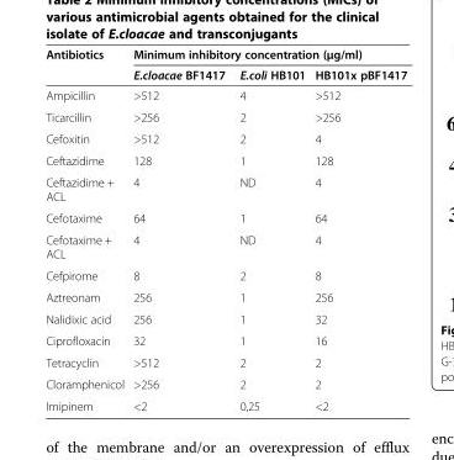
<table><thead><tr><td rowspan="2">Antibiotics</td><td colspan="3">Minimum inhibitory concentration (μg/ml)</td></tr><tr><td>E.cloacae BF1417</td><td>E.coli HB101</td><td>HB101x pBF1417</td></tr></thead><tbody><tr><td>Ampicillin</td><td>&gt;512</td><td>4</td><td>&gt;512</td></tr><tr><td>Ticarcillin</td><td>&gt;256</td><td>2</td><td>&gt;256</td></tr><tr><td>Cefoxitin</td><td>&gt;512</td><td>2</td><td>4</td></tr><tr><td>Ceftazidime</td><td>128</td><td>1</td><td>128</td></tr><tr><td>Ceftazidime + ACL</td><td>4</td><td>ND</td><td>4</td></tr><tr><td>Cefotaxime</td><td>64</td><td>1</td><td>64</td></tr><tr><td>Cefotaxime + ACL</td><td>4</td><td>ND</td><td>4</td></tr><tr><td>Cefpirome</td><td>8</td><td>2</td><td>8</td></tr><tr><td>Aztreonam</td><td>256</td><td>1</td><td>256</td></tr><tr><td>Nalidixic acid</td><td>256</td><td>1</td><td>32</td></tr><tr><td>Ciprofloxacin</td><td>32</td><td>1</td><td>16</td></tr><tr><td>Tetracyclin</td><td>&gt;512</td><td>2</td><td>2</td></tr><tr><td>Cloramphenicol</td><td>&gt;256</td><td>2</td><td>2</td></tr><tr><td>Imipinem</td><td>&lt;2</td><td>0,25</td><td>&lt;2</td></tr></tbody></table>